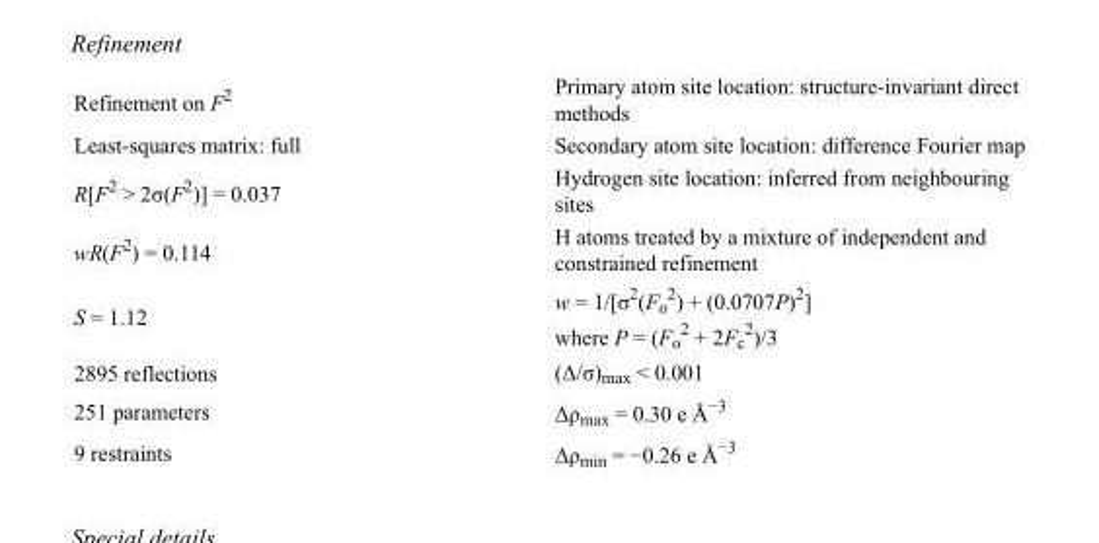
<table><tbody><tr><td>Refinement on F<sup>2</sup></td><td>Primary atom site location: structure-invariant direct methods</td></tr><tr><td>Least-squares matrix: full</td><td>Secondary atom site location: difference Fourier map</td></tr><tr><td>R[F<sup>2</sup> &gt; 2σ(F<sup>2</sup>)] = 0.037</td><td>Hydrogen site location: inferred from neighbouring sites</td></tr><tr><td>wR(F<sup>2</sup>) = 0.114</td><td>H atoms treated by a mixture of independent and constrained refinement</td></tr><tr><td>S = 1.12</td><td>w = 1/[σ<sup>2</sup>(F<sub>o</sub> <sup>2</sup>) + (0.0707P)<sup>2</sup>] where P = (F<sub>o</sub> <sup>2</sup> + 2F<sub>c</sub> <sup>2</sup>)/3</td></tr><tr><td>2895 reflections</td><td>(Δ/σ)<sub>max</sub> &lt; 0.001</td></tr><tr><td>251 parameters</td><td>Δρ<sub>max</sub> = 0.30 e Å<sup>−3</sup></td></tr><tr><td>9 restraints</td><td>Δρ<sub>min</sub> = −0.26 e Å<sup>−3</sup></td></tr></tbody></table>